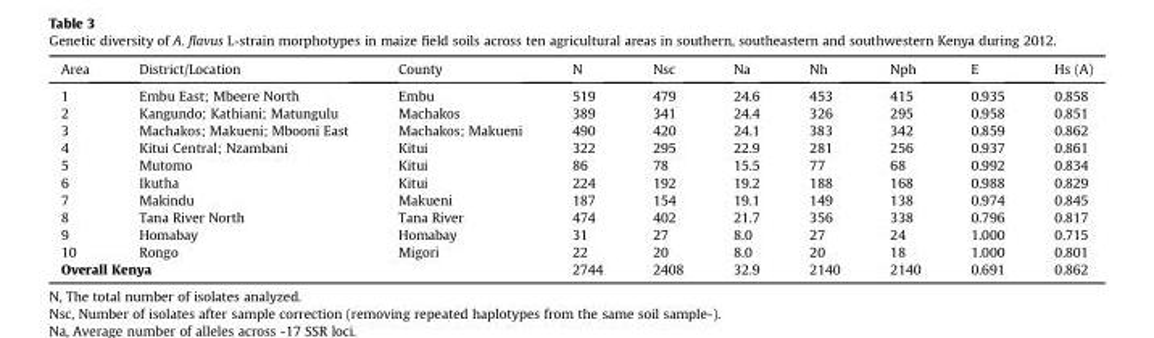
<table><thead><tr><td>Area</td><td>District/Location</td><td>County</td><td>N</td><td>Nsc</td><td>Na</td><td>Nh</td><td>Nph</td><td>E</td><td>Hs (A)</td></tr></thead><tbody><tr><td>1</td><td>Embu East; Mbeere North</td><td>Embu</td><td>519</td><td>479</td><td>24.6</td><td>453</td><td>415</td><td>0.935</td><td>0.858</td></tr><tr><td>2</td><td>Kangundo; Kathiani; Matungulu</td><td>Machakos</td><td>389</td><td>341</td><td>24.4</td><td>326</td><td>295</td><td>0.958</td><td>0.851</td></tr><tr><td>3</td><td>Machakos; Makueni; Mbooni East</td><td>Machakos; Makueni</td><td>490</td><td>420</td><td>24.1</td><td>383</td><td>342</td><td>0.859</td><td>0.862</td></tr><tr><td>4</td><td>Kitui Central; Nzambani</td><td>Kitui</td><td>322</td><td>295</td><td>22.9</td><td>281</td><td>256</td><td>0.937</td><td>0.861</td></tr><tr><td>5</td><td>Mutomo</td><td>Kitui</td><td>86</td><td>78</td><td>15.5</td><td>77</td><td>68</td><td>0.992</td><td>0.834</td></tr><tr><td>6</td><td>Ikutha</td><td>Kitui</td><td>224</td><td>192</td><td>19.2</td><td>188</td><td>168</td><td>0.988</td><td>0.829</td></tr><tr><td>7</td><td>Makindu</td><td>Makueni</td><td>187</td><td>154</td><td>19.1</td><td>149</td><td>138</td><td>0.974</td><td>0.845</td></tr><tr><td>8</td><td>Tana River North</td><td>Tana River</td><td>474</td><td>402</td><td>21.7</td><td>356</td><td>338</td><td>0.796</td><td>0.817</td></tr><tr><td>9</td><td>Homabay</td><td>Homabay</td><td>31</td><td>27</td><td>8.0</td><td>27</td><td>24</td><td>1.000</td><td>0.715</td></tr><tr><td>10</td><td>Rongo</td><td>Migori</td><td>22</td><td>20</td><td>8.0</td><td>20</td><td>18</td><td>1.000</td><td>0.801</td></tr><tr><td colspan="3">Overall Kenya</td><td>2744</td><td>2408</td><td>32.9</td><td>2140</td><td>2140</td><td>0.691</td><td>0.862</td></tr></tbody></table>